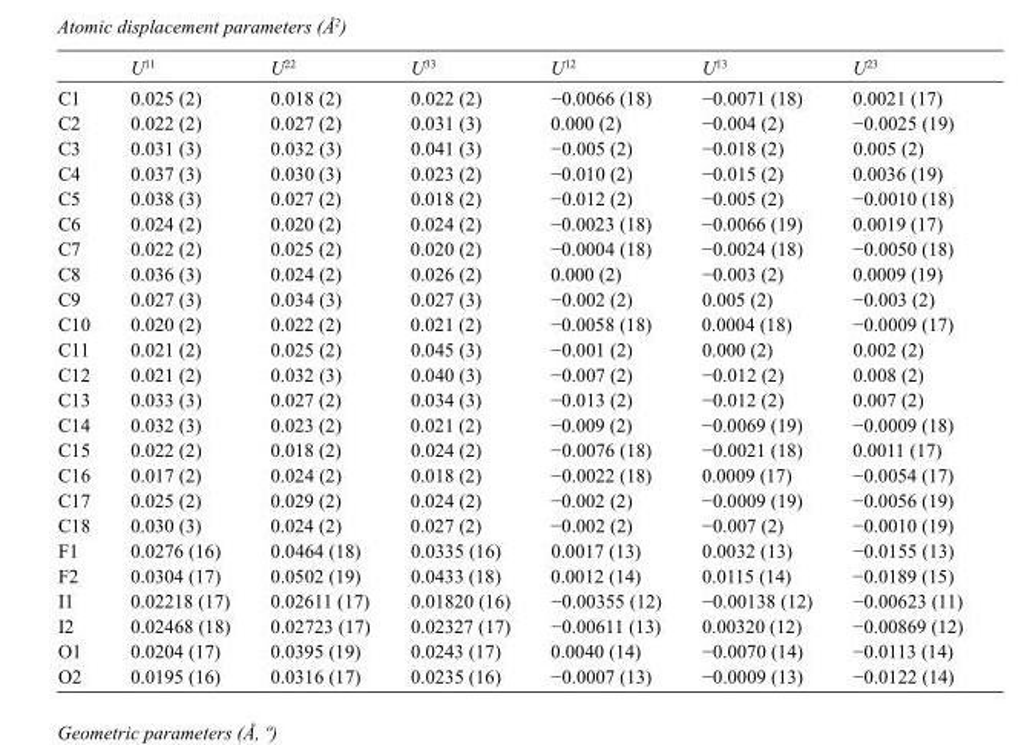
<table><thead><tr><td></td><td>U<sup>11</sup></td><td>U<sup>22</sup></td><td>U<sup>33</sup></td><td>U<sup>12</sup></td><td>U<sup>13</sup></td><td>U<sup>23</sup></td></tr></thead><tbody><tr><td>C1</td><td>0.025 (2)</td><td>0.018 (2)</td><td>0.022 (2)</td><td>−0.0066 (18)</td><td>−0.0071 (18)</td><td>0.0021 (17)</td></tr><tr><td>C2</td><td>0.022 (2)</td><td>0.027 (2)</td><td>0.031 (3)</td><td>0.000 (2)</td><td>−0.004 (2)</td><td>−0.0025 (19)</td></tr><tr><td>C3</td><td>0.031 (3)</td><td>0.032 (3)</td><td>0.041 (3)</td><td>−0.005 (2)</td><td>−0.018 (2)</td><td>0.005 (2)</td></tr><tr><td>C4</td><td>0.037 (3)</td><td>0.030 (3)</td><td>0.023 (2)</td><td>−0.010 (2)</td><td>−0.015 (2)</td><td>0.0036 (19)</td></tr><tr><td>C5</td><td>0.038 (3)</td><td>0.027 (2)</td><td>0.018 (2)</td><td>−0.012 (2)</td><td>−0.005 (2)</td><td>−0.0010 (18)</td></tr><tr><td>C6</td><td>0.024 (2)</td><td>0.020 (2)</td><td>0.024 (2)</td><td>−0.0023 (18)</td><td>−0.0066 (19)</td><td>0.0019 (17)</td></tr><tr><td>C7</td><td>0.022 (2)</td><td>0.025 (2)</td><td>0.020 (2)</td><td>−0.0004 (18)</td><td>−0.0024 (18)</td><td>−0.0050 (18)</td></tr><tr><td>C8</td><td>0.036 (3)</td><td>0.024 (2)</td><td>0.026 (2)</td><td>0.000 (2)</td><td>−0.003 (2)</td><td>0.0009 (19)</td></tr><tr><td>C9</td><td>0.027 (3)</td><td>0.034 (3)</td><td>0.027 (3)</td><td>−0.002 (2)</td><td>0.005 (2)</td><td>−0.003 (2)</td></tr><tr><td>C10</td><td>0.020 (2)</td><td>0.022 (2)</td><td>0.021 (2)</td><td>−0.0058 (18)</td><td>0.0004 (18)</td><td>−0.0009 (17)</td></tr><tr><td>C11</td><td>0.021 (2)</td><td>0.025 (2)</td><td>0.045 (3)</td><td>−0.001 (2)</td><td>0.000 (2)</td><td>0.002 (2)</td></tr><tr><td>C12</td><td>0.021 (2)</td><td>0.032 (3)</td><td>0.040 (3)</td><td>−0.007 (2)</td><td>−0.012 (2)</td><td>0.008 (2)</td></tr><tr><td>C13</td><td>0.033 (3)</td><td>0.027 (2)</td><td>0.034 (3)</td><td>−0.013 (2)</td><td>−0.012 (2)</td><td>0.007 (2)</td></tr><tr><td>C14</td><td>0.032 (3)</td><td>0.023 (2)</td><td>0.021 (2)</td><td>−0.009 (2)</td><td>−0.0069 (19)</td><td>−0.0009 (18)</td></tr><tr><td>C15</td><td>0.022 (2)</td><td>0.018 (2)</td><td>0.024 (2)</td><td>−0.0076 (18)</td><td>−0.0021 (18)</td><td>0.0011 (17)</td></tr><tr><td>C16</td><td>0.017 (2)</td><td>0.024 (2)</td><td>0.018 (2)</td><td>−0.0022 (18)</td><td>0.0009 (17)</td><td>−0.0054 (17)</td></tr><tr><td>C17</td><td>0.025 (2)</td><td>0.029 (2)</td><td>0.024 (2)</td><td>−0.002 (2)</td><td>−0.0009 (19)</td><td>−0.0056 (19)</td></tr><tr><td>C18</td><td>0.030 (3)</td><td>0.024 (2)</td><td>0.027 (2)</td><td>−0.002 (2)</td><td>−0.007 (2)</td><td>−0.0010 (19)</td></tr><tr><td>F1</td><td>0.0276 (16)</td><td>0.0464 (18)</td><td>0.0335 (16)</td><td>0.0017 (13)</td><td>0.0032 (13)</td><td>−0.0155 (13)</td></tr><tr><td>F2</td><td>0.0304 (17)</td><td>0.0502 (19)</td><td>0.0433 (18)</td><td>0.0012 (14)</td><td>0.0115 (14)</td><td>−0.0189 (15)</td></tr><tr><td>I1</td><td>0.02218 (17)</td><td>0.02611 (17)</td><td>0.01820 (16)</td><td>−0.00355 (12)</td><td>−0.00138 (12)</td><td>−0.00623 (11)</td></tr><tr><td>I2</td><td>0.02468 (18)</td><td>0.02723 (17)</td><td>0.02327 (17)</td><td>−0.00611 (13)</td><td>0.00320 (12)</td><td>−0.00869 (12)</td></tr><tr><td>O1</td><td>0.0204 (17)</td><td>0.0395 (19)</td><td>0.0243 (17)</td><td>0.0040 (14)</td><td>−0.0070 (14)</td><td>−0.0113 (14)</td></tr><tr><td>O2</td><td>0.0195 (16)</td><td>0.0316 (17)</td><td>0.0235 (16)</td><td>−0.0007 (13)</td><td>−0.0009 (13)</td><td>−0.0122 (14)</td></tr></tbody></table>